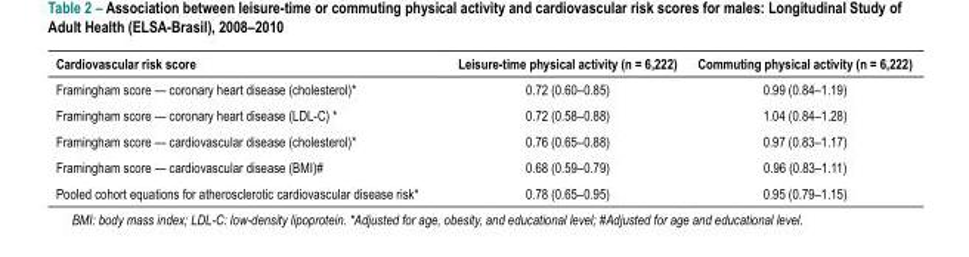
<table><thead><tr><td>Cardiovascular risk score</td><td>Leisure-time physical activity (n = 6,222)</td><td>Commuting physical activity (n = 6,222)</td></tr></thead><tbody><tr><td>Framingham score — coronary heart disease (cholesterol)*</td><td>0.72 (0.60–0.85)</td><td>0.99 (0.84–1.19)</td></tr><tr><td>Framingham score — coronary heart disease (LDL-C) *</td><td>0.72 (0.58–0.88)</td><td>1.04 (0.84–1.28)</td></tr><tr><td>Framingham score — cardiovascular disease (cholesterol)*</td><td>0.76 (0.65–0.88)</td><td>0.97 (0.83–1.17)</td></tr><tr><td>Framingham score — cardiovascular disease (BMI)#</td><td>0.68 (0.59–0.79)</td><td>0.96 (0.83–1.11)</td></tr><tr><td>Pooled cohort equations for atherosclerotic cardiovascular disease risk*</td><td>0.78 (0.65–0.95)</td><td>0.95 (0.79–1.15)</td></tr></tbody></table>